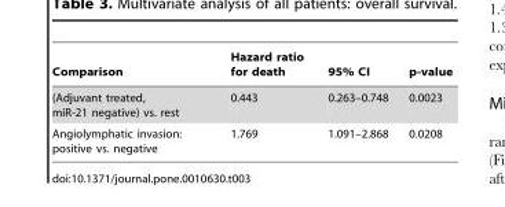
<table><thead><tr><td>Comparison</td><td>Hazard ratio for death</td><td>95% CI</td><td>p-value</td></tr></thead><tbody><tr><td>(Adjuvant treated, miR-21 negative) vs. rest</td><td>0.443</td><td>0.263–0.748</td><td>0.0023</td></tr><tr><td>Angiolymphatic invasion: positive vs. negative</td><td>1.769</td><td>1.091–2.868</td><td>0.0208</td></tr></tbody></table>